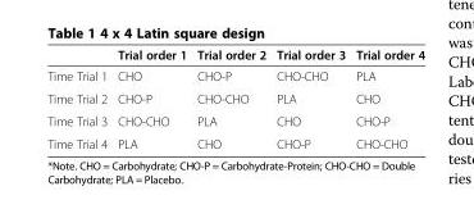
<table><thead><tr><td></td><td>Trial order 1</td><td>Trial order 2</td><td>Trial order 3</td><td>Trial order 4</td></tr></thead><tbody><tr><td>Time Trial 1</td><td>CHO</td><td>CHO-P</td><td>CHO-CHO</td><td>PLA</td></tr><tr><td>Time Trial 2</td><td>CHO-P</td><td>CHO-CHO</td><td>PLA</td><td>CHO</td></tr><tr><td>Time Trial 3</td><td>CHO-CHO</td><td>PLA</td><td>CHO</td><td>CHO-P</td></tr><tr><td>Time Trial 4</td><td>PLA</td><td>CHO</td><td>CHO-P</td><td>CHO-CHO</td></tr></tbody></table>